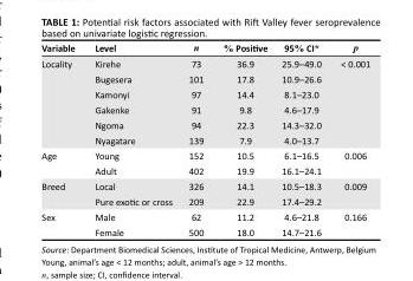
<table><thead><tr><td>Variable</td><td>Level</td><td>n</td><td>% Positive</td><td>95% CI*</td><td>p</td></tr></thead><tbody><tr><td rowspan="6">Locality</td><td>Kirehe</td><td>73</td><td>36.9</td><td>25.9–49.0</td><td>&lt; 0.001</td></tr><tr><td>Bugesera</td><td>101</td><td>17.8</td><td>10.9–26.6</td><td></td></tr><tr><td>Kamonyi</td><td>97</td><td>14.4</td><td>8.1–23.0</td><td></td></tr><tr><td>Gakenke</td><td>91</td><td>9.8</td><td>4.6–17.9</td><td></td></tr><tr><td>Ngoma</td><td>94</td><td>22.3</td><td>14.3–32.0</td><td></td></tr><tr><td>Nyagatare</td><td>139</td><td>7.9</td><td>4.0–13.7</td><td></td></tr><tr><td rowspan="2">Age</td><td>Young</td><td>152</td><td>10.5</td><td>6.1–16.5</td><td>0.006</td></tr><tr><td>Adult</td><td>402</td><td>19.9</td><td>16.1–24.1</td><td></td></tr><tr><td rowspan="2">Breed</td><td>Local</td><td>326</td><td>14.1</td><td>10.5–18.3</td><td>0.009</td></tr><tr><td>Pure exotic or cross</td><td>209</td><td>22.9</td><td>17.4–29.2</td><td></td></tr><tr><td rowspan="2">Sex</td><td>Male</td><td>62</td><td>11.2</td><td>4.6–21.8</td><td>0.166</td></tr><tr><td>Female</td><td>500</td><td>18.0</td><td>14.7–21.6</td><td></td></tr></tbody></table>